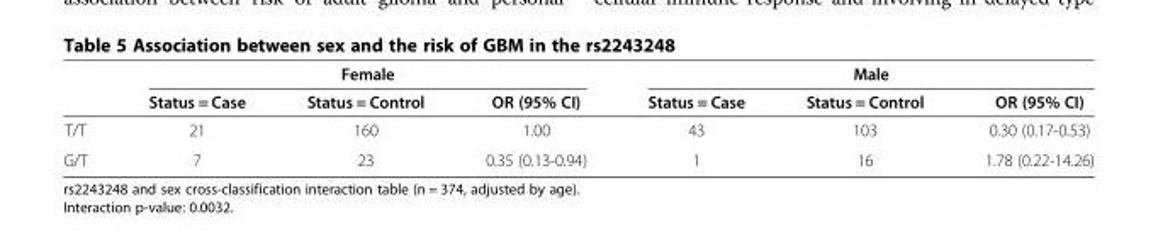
<table><thead><tr><td rowspan="2"></td><td colspan="3">Female</td><td colspan="3">Male</td></tr><tr><td>Status = Case</td><td>Status = Control</td><td>OR (95% CI)</td><td>Status = Case</td><td>Status = Control</td><td>OR (95% CI)</td></tr></thead><tbody><tr><td>T/T</td><td>21</td><td>160</td><td>1.00</td><td>43</td><td>103</td><td>0.30 (0.17-0.53)</td></tr><tr><td>G/T</td><td>7</td><td>23</td><td>0.35 (0.13-0.94)</td><td>1</td><td>16</td><td>1.78 (0.22-14.26)</td></tr></tbody></table>